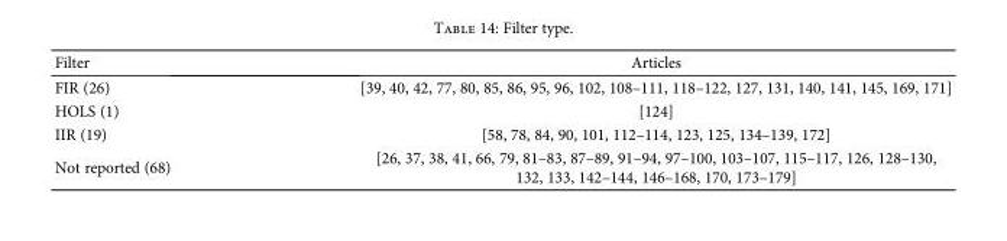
<table><thead><tr><td>Filter</td><td>Articles</td></tr></thead><tbody><tr><td>FIR (26)</td><td>[39, 40, 42, 77, 80, 85, 86, 95, 96, 102, 108–111, 118–122, 127, 131, 140, 141, 145, 169, 171]</td></tr><tr><td>HOLS (1)</td><td>[124]</td></tr><tr><td>IIR (19)</td><td>[58, 78, 84, 90, 101, 112–114, 123, 125, 134–139, 172]</td></tr><tr><td>Not reported (68)</td><td>[26, 37, 38, 41, 66, 79, 81–83, 87–89, 91–94, 97–100, 103–107, 115–117, 126, 128–130, 132, 133, 142–144, 146–168, 170, 173–179]</td></tr></tbody></table>